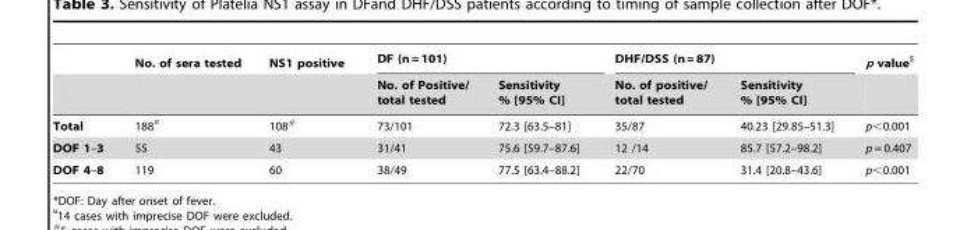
<table><thead><tr><td rowspan="2"></td><td rowspan="2">No. of sera tested</td><td rowspan="2">NS1 positive</td><td colspan="2">DF (n = 101)</td><td colspan="2">DHF/DSS (n = 87)</td><td rowspan="2">p value$</td></tr><tr><td>No. of Positive/ total tested</td><td>Sensitivity % [95% CI]</td><td>No. of positive/ total tested</td><td>Sensitivity % [95% CI]</td></tr></thead><tbody><tr><td>Total</td><td>188¤</td><td>108#</td><td>73/101</td><td>72.3 [63.5–81]</td><td>35/87</td><td>40.23 [29.85–51.3]</td><td>p&lt;0.001</td></tr><tr><td>DOF 1–3</td><td>55</td><td>43</td><td>31/41</td><td>75.6 [59.7–87.6]</td><td>12 /14</td><td>85.7 [57.2–98.2]</td><td>p = 0.407</td></tr><tr><td>DOF 4–8</td><td>119</td><td>60</td><td>38/49</td><td>77.5 [63.4–88.2]</td><td>22/70</td><td>31.4 [20.8–43.6]</td><td>p&lt;0.001</td></tr></tbody></table>